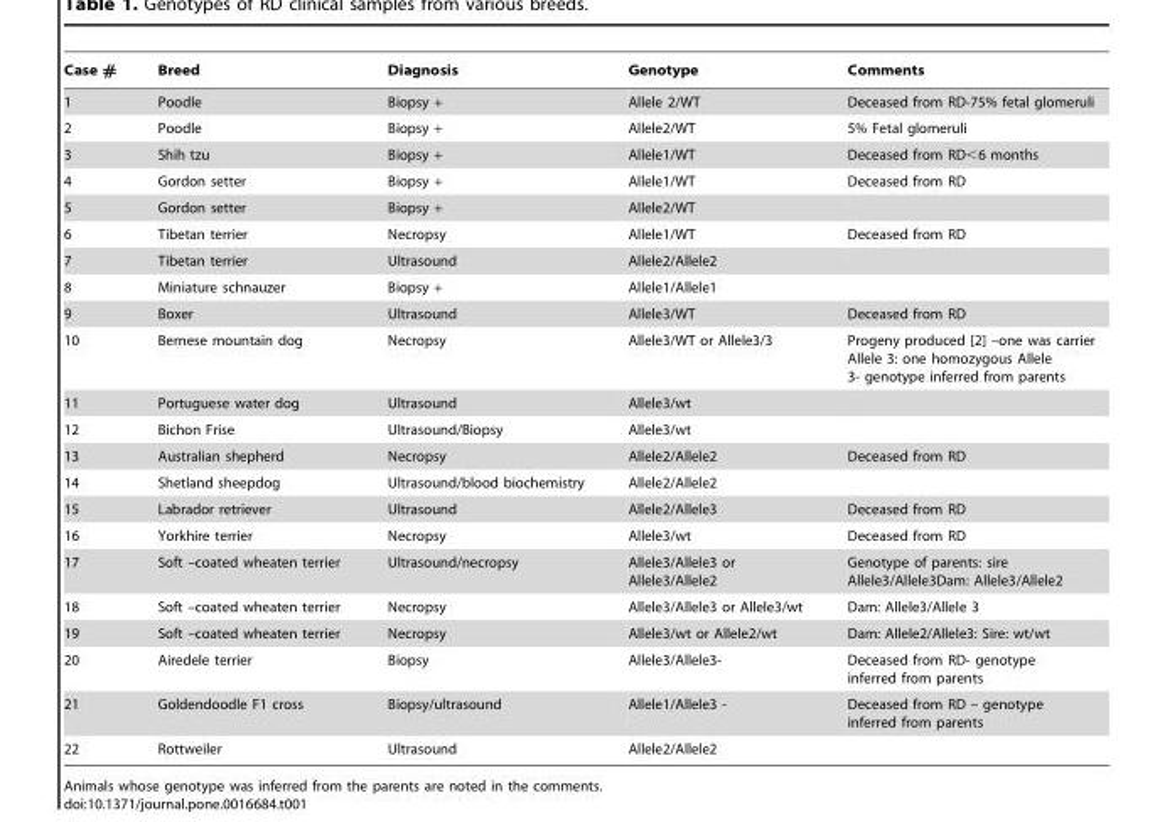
<table><thead><tr><td>Case #</td><td>Breed</td><td>Diagnosis</td><td>Genotype</td><td>Comments</td></tr></thead><tbody><tr><td>1</td><td>Poodle</td><td>Biopsy +</td><td>Allele 2/WT</td><td>Deceased from RD-75% fetal glomeruli</td></tr><tr><td>2</td><td>Poodle</td><td>Biopsy +</td><td>Allele2/WT</td><td>5% Fetal glomeruli</td></tr><tr><td>3</td><td>Shih tzu</td><td>Biopsy +</td><td>Allele1/WT</td><td>Deceased from RD&lt;6 months</td></tr><tr><td>4</td><td>Gordon setter</td><td>Biopsy +</td><td>Allele1/WT</td><td>Deceased from RD</td></tr><tr><td>5</td><td>Gordon setter</td><td>Biopsy +</td><td>Allele2/WT</td><td></td></tr><tr><td>6</td><td>Tibetan terrier</td><td>Necropsy</td><td>Allele1/WT</td><td>Deceased from RD</td></tr><tr><td>7</td><td>Tibetan terrier</td><td>Ultrasound</td><td>Allele2/Allele2</td><td></td></tr><tr><td>8</td><td>Miniature schnauzer</td><td>Biopsy +</td><td>Allele1/Allele1</td><td></td></tr><tr><td>9</td><td>Boxer</td><td>Ultrasound</td><td>Allele3/WT</td><td>Deceased from RD</td></tr><tr><td>10</td><td>Bernese mountain dog</td><td>Necropsy</td><td>Allele3/WT or Allele3/3</td><td>Progeny produced [2] –one was carrier Allele 3: one homozygous Allele 3- genotype inferred from parents</td></tr><tr><td>11</td><td>Portuguese water dog</td><td>Ultrasound</td><td>Allele3/wt</td><td></td></tr><tr><td>12</td><td>Bichon Frise</td><td>Ultrasound/Biopsy</td><td>Allele3/wt</td><td></td></tr><tr><td>13</td><td>Australian shepherd</td><td>Necropsy</td><td>Allele2/Allele2</td><td>Deceased from RD</td></tr><tr><td>14</td><td>Shetland sheepdog</td><td>Ultrasound/blood biochemistry</td><td>Allele2/Allele2</td><td></td></tr><tr><td>15</td><td>Labrador retriever</td><td>Ultrasound</td><td>Allele2/Allele3</td><td>Deceased from RD</td></tr><tr><td>16</td><td>Yorkhire terrier</td><td>Necropsy</td><td>Allele3/wt</td><td>Deceased from RD</td></tr><tr><td>17</td><td>Soft –coated wheaten terrier</td><td>Ultrasound/necropsy</td><td>Allele3/Allele3 or Allele3/Allele2</td><td>Genotype of parents: sire Allele3/Allele3Dam: Allele3/Allele2</td></tr><tr><td>18</td><td>Soft –coated wheaten terrier</td><td>Necropsy</td><td>Allele3/Allele3 or Allele3/wt</td><td>Dam: Allele3/Allele 3</td></tr><tr><td>19</td><td>Soft –coated wheaten terrier</td><td>Necropsy</td><td>Allele3/wt or Allele2/wt</td><td>Dam: Allele2/Allele3: Sire: wt/wt</td></tr><tr><td>20</td><td>Airedele terrier</td><td>Biopsy</td><td>Allele3/Allele3-</td><td>Deceased from RD- genotype inferred from parents</td></tr><tr><td>21</td><td>Goldendoodle F1 cross</td><td>Biopsy/ultrasound</td><td>Allele1/Allele3 -</td><td>Deceased from RD – genotype inferred from parents</td></tr><tr><td>22</td><td>Rottweiler</td><td>Ultrasound</td><td>Allele2/Allele2</td><td></td></tr></tbody></table>